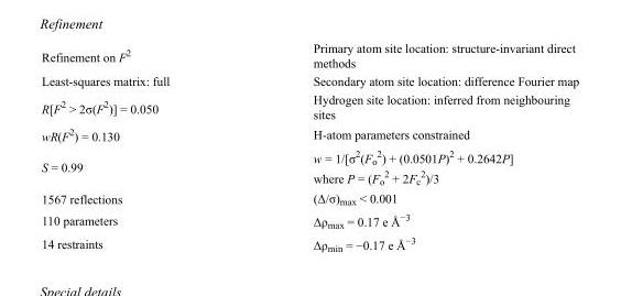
<table><tbody><tr><td>Refinement on F<sup>2</sup></td><td>Primary atom site location: structure-invariant direct methods</td></tr><tr><td>Least-squares matrix: full</td><td>Secondary atom site location: difference Fourier map</td></tr><tr><td>R[F<sup>2</sup> &gt; 2σ(F<sup>2</sup>)] = 0.050</td><td>Hydrogen site location: inferred from neighbouring sites</td></tr><tr><td>wR(F<sup>2</sup>) = 0.130</td><td>H-atom parameters constrained</td></tr><tr><td>S = 0.99</td><td>w = 1/[σ<sup>2</sup>(F<sub>o</sub> <sup>2</sup>) + (0.0501P)<sup>2</sup> + 0.2642P] where P = (F<sub>o</sub> <sup>2</sup> + 2F<sub>c</sub> <sup>2</sup>)/3</td></tr><tr><td>1567 reflections</td><td>(Δ/σ)<sub>max</sub> &lt; 0.001</td></tr><tr><td>110 parameters</td><td>Δρ<sub>max</sub> = 0.17 e Å<sup>−3</sup></td></tr><tr><td>14 restraints</td><td>Δρ<sub>min</sub> = −0.17 e Å<sup>−3</sup></td></tr></tbody></table>